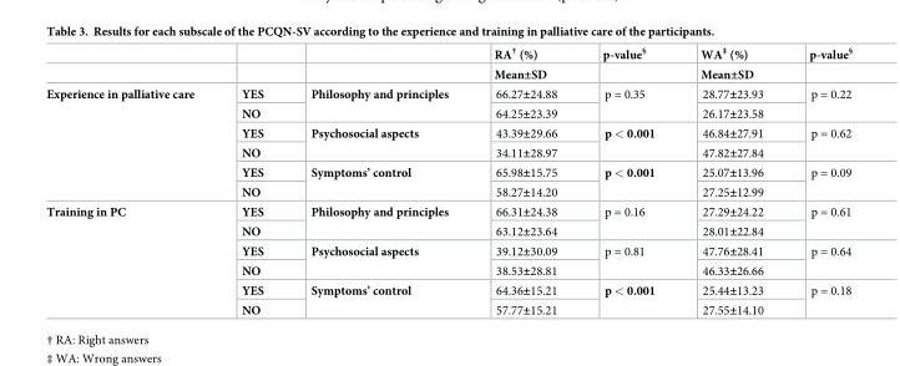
<table><thead><tr><td rowspan="2"></td><td rowspan="2"></td><td rowspan="2"></td><td rowspan="2">RA<sup>†</sup> (%) Mean±SD</td><td rowspan="2">p-value<sup>§</sup></td><td rowspan="2">WA<sup>‡</sup> (%) Mean±SD</td><td rowspan="2">p-value<sup>§</sup></td></tr><tr></tr></thead><tbody><tr><td rowspan="6">Experience in palliative care</td><td>YES</td><td rowspan="2">Philosophy and principles</td><td>66.27±24.88</td><td rowspan="2">p = 0.35</td><td>28.77±23.93</td><td rowspan="2">p = 0.22</td></tr><tr><td>NO</td><td>64.25±23.39</td><td>26.17±23.58</td></tr><tr><td>YES</td><td rowspan="2">Psychosocial aspects</td><td>43.39±29.66</td><td rowspan="2">p &lt; 0.001</td><td>46.84±27.91</td><td rowspan="2">p = 0.62</td></tr><tr><td>NO</td><td>34.11±28.97</td><td>47.82±27.84</td></tr><tr><td>YES</td><td rowspan="2">Symptoms’ control</td><td>65.98±15.75</td><td rowspan="2">p &lt; 0.001</td><td>25.07±13.96</td><td rowspan="2">p = 0.09</td></tr><tr><td>NO</td><td>58.27±14.20</td><td>27.25±12.99</td></tr><tr><td rowspan="6">Training in PC</td><td>YES</td><td rowspan="2">Philosophy and principles</td><td>66.31±24.38</td><td rowspan="2">p = 0.16</td><td>27.29±24.22</td><td rowspan="2">p = 0.61</td></tr><tr><td>NO</td><td>63.12±23.64</td><td>28.01±22.84</td></tr><tr><td>YES</td><td rowspan="2">Psychosocial aspects</td><td>39.12±30.09</td><td rowspan="2">p = 0.81</td><td>47.76±28.41</td><td rowspan="2">p = 0.64</td></tr><tr><td>NO</td><td>38.53±28.81</td><td>46.33±26.66</td></tr><tr><td>YES</td><td rowspan="2">Symptoms’ control</td><td>64.36±15.21</td><td rowspan="2">p &lt; 0.001</td><td>25.44±13.23</td><td rowspan="2">p = 0.18</td></tr><tr><td>NO</td><td>57.77±15.21</td><td>27.55±14.10</td></tr></tbody></table>